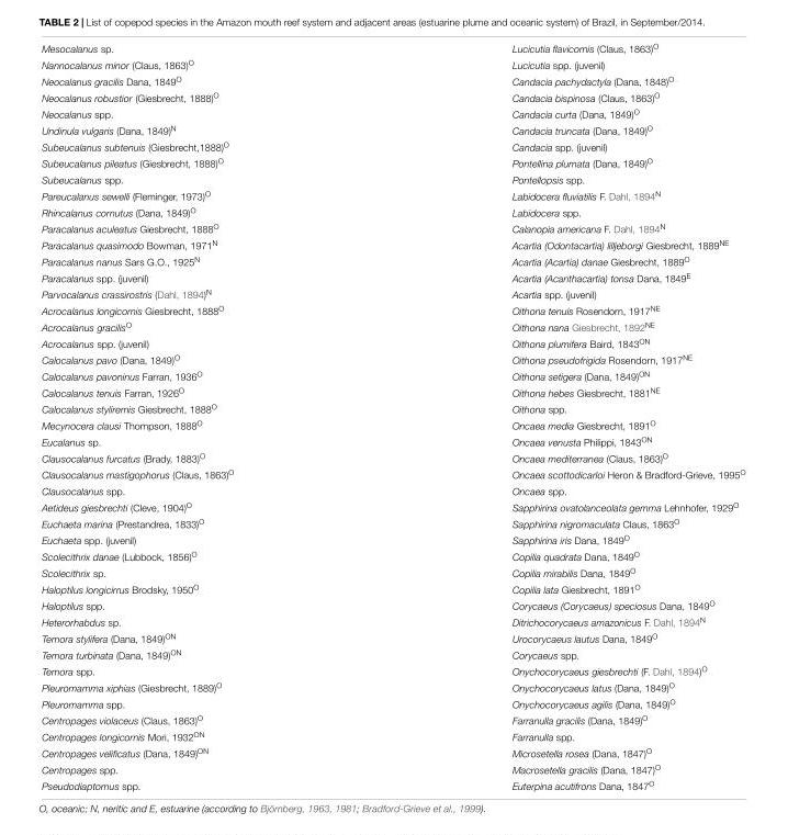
<table><tbody><tr><td>Mesocalanus sp.</td><td>Lucicutia flavicornis (Claus, 1863)<sup>O</sup></td></tr><tr><td>Nannocalanus minor (Claus, 1863)<sup>O</sup></td><td>Lucicutia spp. (juvenil)</td></tr><tr><td>Neocalanus gracilis Dana, 1849<sup>O</sup></td><td>Candacia pachydactyla (Dana, 1848)<sup>O</sup></td></tr><tr><td>Neocalanus robustior (Giesbrecht, 1888)<sup>O</sup></td><td>Candacia bispinosa (Claus, 1863)<sup>O</sup></td></tr><tr><td>Neocalanus spp.</td><td>Candacia curta (Dana, 1849)<sup>O</sup></td></tr><tr><td>Undinula vulgaris (Dana, 1849)<sup>N</sup></td><td>Candacia truncata (Dana, 1849)<sup>O</sup></td></tr><tr><td>Subeucalanus subtenuis (Giesbrecht,1888)<sup>O</sup></td><td>Candacia spp. (juvenil)</td></tr><tr><td>Subeucalanus pileatus (Giesbrecht, 1888)<sup>O</sup></td><td>Pontellina plumata (Dana, 1849)<sup>O</sup></td></tr><tr><td>Subeucalanus spp.</td><td>Pontellopsis spp.</td></tr><tr><td>Pareucalanus sewelli (Fleminger, 1973)<sup>O</sup></td><td>Labidocera fluviatilis F. Dahl, 1894<sup>N</sup></td></tr><tr><td>Rhincalanus cornutus (Dana, 1849)<sup>O</sup></td><td>Labidocera spp.</td></tr><tr><td>Paracalanus aculeatus Giesbrecht, 1888<sup>O</sup></td><td>Calanopia americana F. Dahl, 1894<sup>N</sup></td></tr><tr><td>Paracalanus quasimodo Bowman, 1971<sup>N</sup></td><td>Acartia (Odontacartia) lilljeborgi Giesbrecht, 1889<sup>NE</sup></td></tr><tr><td>Paracalanus nanus Sars G.O., 1925<sup>N</sup></td><td>Acartia (Acartia) danae Giesbrecht, 1889<sup>O</sup></td></tr><tr><td>Paracalanus spp. (juvenil)</td><td>Acartia (Acanthacartia) tonsa Dana, 1849<sup>E</sup></td></tr><tr><td>Parvocalanus crassirostris (Dahl, 1894)<sup>N</sup></td><td>Acartia spp. (juvenil)</td></tr><tr><td>Acrocalanus longicornis Giesbrecht, 1888<sup>O</sup></td><td>Oithona tenuis Rosendorn, 1917<sup>NE</sup></td></tr><tr><td>Acrocalanus gracilis<sup>O</sup></td><td>Oithona nana Giesbrecht, 1892<sup>NE</sup></td></tr><tr><td>Acrocalanus spp. (juvenil)</td><td>Oithona plumifera Baird, 1843<sup>ON</sup></td></tr><tr><td>Calocalanus pavo (Dana, 1849)<sup>O</sup></td><td>Oithona pseudofrigida Rosendorn, 1917<sup>NE</sup></td></tr><tr><td>Calocalanus pavoninus Farran, 1936<sup>O</sup></td><td>Oithona setigera (Dana, 1849)<sup>ON</sup></td></tr><tr><td>Calocalanus tenuis Farran, 1926<sup>O</sup></td><td>Oithona hebes Giesbrecht, 1881<sup>NE</sup></td></tr><tr><td>Calocalanus styliremis Giesbrecht, 1888<sup>O</sup></td><td>Oithona spp.</td></tr><tr><td>Mecynocera clausi Thompson, 1888<sup>O</sup></td><td>Oncaea media Giesbrecht, 1891<sup>O</sup></td></tr><tr><td>Eucalanus sp.</td><td>Oncaea venusta Philippi, 1843<sup>ON</sup></td></tr><tr><td>Clausocalanus furcatus (Brady, 1883)<sup>O</sup></td><td>Oncaea mediterranea (Claus, 1863)<sup>O</sup></td></tr><tr><td>Clausocalanus mastigophorus (Claus, 1863)<sup>O</sup></td><td>Oncaea scottodicarloi Heron &amp; Bradford-Grieve, 1995<sup>O</sup></td></tr><tr><td>Clausocalanus spp.</td><td>Oncaea spp.</td></tr><tr><td>Aetideus giesbrechti (Cleve, 1904)<sup>O</sup></td><td>Sapphirina ovatolanceolata gemma Lehnhofer, 1929<sup>O</sup></td></tr><tr><td>Euchaeta marina (Prestandrea, 1833)<sup>O</sup></td><td>Sapphirina nigromaculata Claus, 1863<sup>O</sup></td></tr><tr><td>Euchaeta spp. (juvenil)</td><td>Sapphirina iris Dana, 1849<sup>O</sup></td></tr><tr><td>Scolecithrix danae (Lubbock, 1856)<sup>O</sup></td><td>Copilia quadrata Dana, 1849<sup>O</sup></td></tr><tr><td>Scolecithrix sp.</td><td>Copilia mirabilis Dana, 1849<sup>O</sup></td></tr><tr><td>Haloptilus longicirrus Brodsky, 1950<sup>O</sup></td><td>Copilia lata Giesbrecht, 1891<sup>O</sup></td></tr><tr><td>Haloptilus spp.</td><td>Corycaeus (Corycaeus) speciosus Dana, 1849<sup>O</sup></td></tr><tr><td>Heterorhabdus sp.</td><td>Ditrichocorycaeus amazonicus F. Dahl, 1894<sup>N</sup></td></tr><tr><td>Temora stylifera (Dana, 1849)<sup>ON</sup></td><td>Urocorycaeus lautus Dana, 1849<sup>O</sup></td></tr><tr><td>Temora turbinata (Dana, 1849)<sup>ON</sup></td><td>Corycaeus spp.</td></tr><tr><td>Temora spp.</td><td>Onychocorycaeus giesbrechti (F. Dahl, 1894)<sup>O</sup></td></tr><tr><td>Pleuromamma xiphias (Giesbrecht, 1889)<sup>O</sup></td><td>Onychocorycaeus latus (Dana, 1849)<sup>O</sup></td></tr><tr><td>Pleuromamma spp.</td><td>Onychocorycaeus agilis (Dana, 1849)<sup>O</sup></td></tr><tr><td>Centropages violaceus (Claus, 1863)<sup>O</sup></td><td>Farranulla gracilis (Dana, 1849)<sup>O</sup></td></tr><tr><td>Centropages longicornis Mori, 1932<sup>ON</sup></td><td>Farranulla spp.</td></tr><tr><td>Centropages velificatus (Dana, 1849)<sup>ON</sup></td><td>Microsetella rosea (Dana, 1847)<sup>O</sup></td></tr><tr><td>Centropages spp.</td><td>Macrosetella gracilis (Dana, 1847)<sup>O</sup></td></tr><tr><td>Pseudodiaptomus spp.</td><td>Euterpina acutifrons Dana, 1847<sup>O</sup></td></tr></tbody></table>